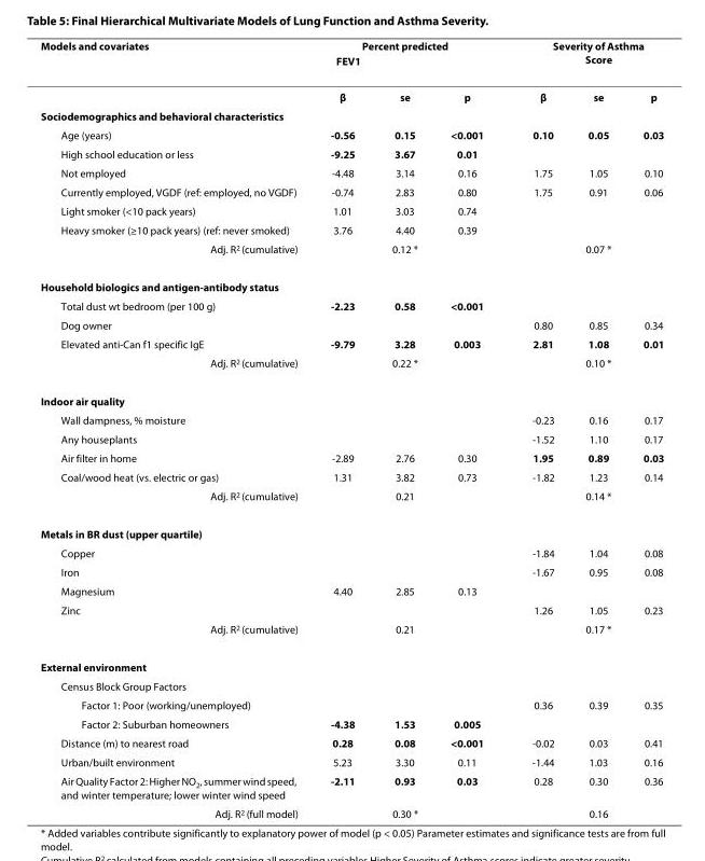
<table><thead><tr><td rowspan="2">Models and covariates</td><td colspan="3">Percent predicted FEV<sub>1</sub></td><td colspan="3">Severity of Asthma Score</td></tr><tr><td>β</td><td>se</td><td>p</td><td>β</td><td>se</td><td>p</td></tr></thead><tbody><tr><td colspan="7">Sociodemographics and behavioral characteristics</td></tr><tr><td>Age (years)</td><td>-0.56</td><td>0.15</td><td>&lt;0.001</td><td>0.10</td><td>0.05</td><td>0.03</td></tr><tr><td>High school education or less</td><td>-9.25</td><td>3.67</td><td>0.01</td><td></td><td></td><td></td></tr><tr><td>Not employed</td><td>-4.48</td><td>3.14</td><td>0.16</td><td>1.75</td><td>1.05</td><td>0.10</td></tr><tr><td>Currently employed, VGDF (ref: employed, no VGDF)</td><td>-0.74</td><td>2.83</td><td>0.80</td><td>1.75</td><td>0.91</td><td>0.06</td></tr><tr><td>Light smoker (&lt;10 pack years)</td><td>1.01</td><td>3.03</td><td>0.74</td><td></td><td></td><td></td></tr><tr><td>Heavy smoker (≥10 pack years) (ref: never smoked)</td><td>3.76</td><td>4.40</td><td>0.39</td><td></td><td></td><td></td></tr><tr><td>Adj. R<sup>2</sup> (cumulative)</td><td colspan="3">0.12 *</td><td colspan="3">0.07 *</td></tr><tr><td colspan="7">Household biologics and antigen-antibody status</td></tr><tr><td>Total dust wt bedroom (per 100 g)</td><td>-2.23</td><td>0.58</td><td>&lt;0.001</td><td></td><td></td><td></td></tr><tr><td>Dog owner</td><td></td><td></td><td></td><td>0.80</td><td>0.85</td><td>0.34</td></tr><tr><td>Elevated anti-Can f1 specific IgE</td><td>-9.79</td><td>3.28</td><td>0.003</td><td>2.81</td><td>1.08</td><td>0.01</td></tr><tr><td>Adj. R<sup>2</sup> (cumulative)</td><td colspan="3">0.22 *</td><td colspan="3">0.10 *</td></tr><tr><td colspan="7">Indoor air quality</td></tr><tr><td>Wall dampness, % moisture</td><td></td><td></td><td></td><td>-0.23</td><td>0.16</td><td>0.17</td></tr><tr><td>Any houseplants</td><td></td><td></td><td></td><td>-1.52</td><td>1.10</td><td>0.17</td></tr><tr><td>Air filter in home</td><td>-2.89</td><td>2.76</td><td>0.30</td><td>1.95</td><td>0.89</td><td>0.03</td></tr><tr><td>Coal/wood heat (vs. electric or gas)</td><td>1.31</td><td>3.82</td><td>0.73</td><td>-1.82</td><td>1.23</td><td>0.14</td></tr><tr><td>Adj. R<sup>2</sup> (cumulative)</td><td colspan="3">0.21</td><td colspan="3">0.14 *</td></tr><tr><td colspan="7">Metals in BR dust (upper quartile)</td></tr><tr><td>Copper</td><td></td><td></td><td></td><td>-1.84</td><td>1.04</td><td>0.08</td></tr><tr><td>Iron</td><td></td><td></td><td></td><td>-1.67</td><td>0.95</td><td>0.08</td></tr><tr><td>Magnesium</td><td>4.40</td><td>2.85</td><td>0.13</td><td></td><td></td><td></td></tr><tr><td>Zinc</td><td></td><td></td><td></td><td>1.26</td><td>1.05</td><td>0.23</td></tr><tr><td>Adj. R<sup>2</sup> (cumulative)</td><td colspan="3">0.21</td><td colspan="3">0.17 *</td></tr><tr><td colspan="7">External environment</td></tr><tr><td colspan="7">Census Block Group Factors</td></tr><tr><td>Factor 1: Poor (working/unemployed)</td><td></td><td></td><td></td><td>0.36</td><td>0.39</td><td>0.35</td></tr><tr><td>Factor 2: Suburban homeowners</td><td>-4.38</td><td>1.53</td><td>0.005</td><td></td><td></td><td></td></tr><tr><td>Distance (m) to nearest road</td><td>0.28</td><td>0.08</td><td>&lt;0.001</td><td>-0.02</td><td>0.03</td><td>0.41</td></tr><tr><td>Urban/built environment</td><td>5.23</td><td>3.30</td><td>0.11</td><td>-1.44</td><td>1.03</td><td>0.16</td></tr><tr><td>Air Quality Factor 2: Higher NO<sub>2</sub>, summer wind speed, and winter temperature; lower winter wind speed</td><td>-2.11</td><td>0.93</td><td>0.03</td><td>0.28</td><td>0.30</td><td>0.36</td></tr><tr><td>Adj. R<sup>2</sup> (full model)</td><td colspan="3">0.30 *</td><td colspan="3">0.16</td></tr></tbody></table>